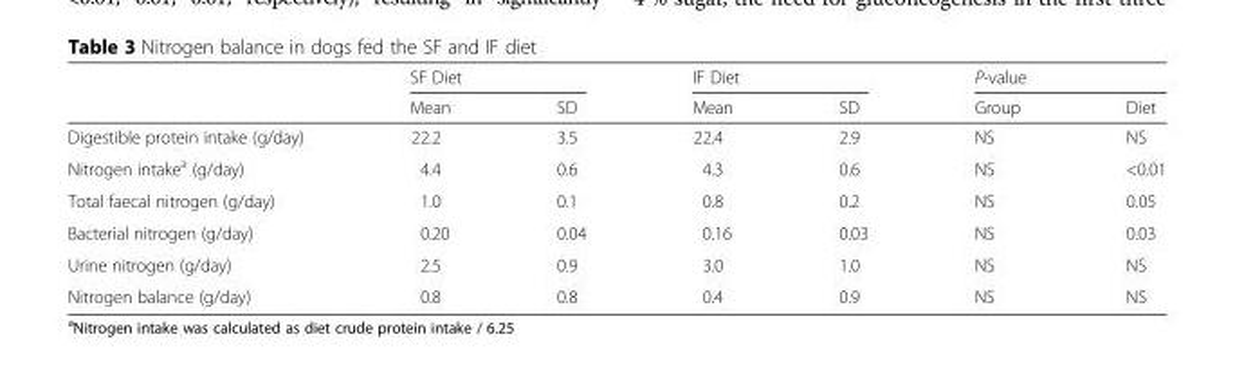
<table><thead><tr><td rowspan="2"></td><td colspan="2">SF Diet</td><td colspan="2">IF Diet</td><td colspan="2">P-value</td></tr><tr><td>Mean</td><td>SD</td><td>Mean</td><td>SD</td><td>Group</td><td>Diet</td></tr></thead><tbody><tr><td>Digestible protein intake (g/day)</td><td>22.2</td><td>3.5</td><td>22.4</td><td>2.9</td><td>NS</td><td>NS</td></tr><tr><td>Nitrogen intake<sup>a</sup> (g/day)</td><td>4.4</td><td>0.6</td><td>4.3</td><td>0.6</td><td>NS</td><td>&lt;0.01</td></tr><tr><td>Total faecal nitrogen (g/day)</td><td>1.0</td><td>0.1</td><td>0.8</td><td>0.2</td><td>NS</td><td>0.05</td></tr><tr><td>Bacterial nitrogen (g/day)</td><td>0.20</td><td>0.04</td><td>0.16</td><td>0.03</td><td>NS</td><td>0.03</td></tr><tr><td>Urine nitrogen (g/day)</td><td>2.5</td><td>0.9</td><td>3.0</td><td>1.0</td><td>NS</td><td>NS</td></tr><tr><td>Nitrogen balance (g/day)</td><td>0.8</td><td>0.8</td><td>0.4</td><td>0.9</td><td>NS</td><td>NS</td></tr></tbody></table>